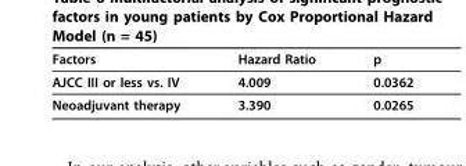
<table><thead><tr><td>Factors</td><td>Hazard Ratio</td><td>p</td></tr></thead><tbody><tr><td>AJCC III or less vs. IV</td><td>4.009</td><td>0.0362</td></tr><tr><td>Neoadjuvant therapy</td><td>3.390</td><td>0.0265</td></tr></tbody></table>